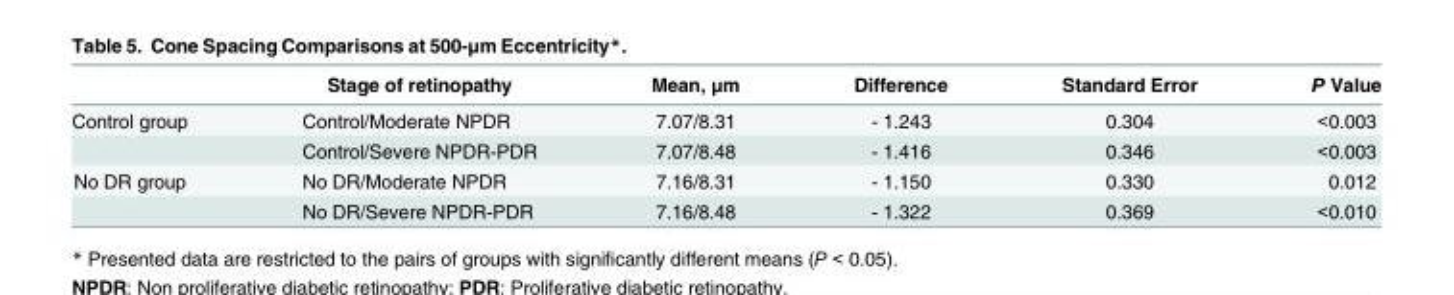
<table><thead><tr><td></td><td>Stage of retinopathy</td><td>Mean, μm</td><td>Difference</td><td>Standard Error</td><td>P Value</td></tr></thead><tbody><tr><td rowspan="2">Control group</td><td>Control/Moderate NPDR</td><td>7.07/8.31</td><td>- 1.243</td><td>0.304</td><td>&lt;0.003</td></tr><tr><td>Control/Severe NPDR-PDR</td><td>7.07/8.48</td><td>- 1.416</td><td>0.346</td><td>&lt;0.003</td></tr><tr><td rowspan="2">No DR group</td><td>No DR/Moderate NPDR</td><td>7.16/8.31</td><td>- 1.150</td><td>0.330</td><td>0.012</td></tr><tr><td>No DR/Severe NPDR-PDR</td><td>7.16/8.48</td><td>- 1.322</td><td>0.369</td><td>&lt;0.010</td></tr></tbody></table>